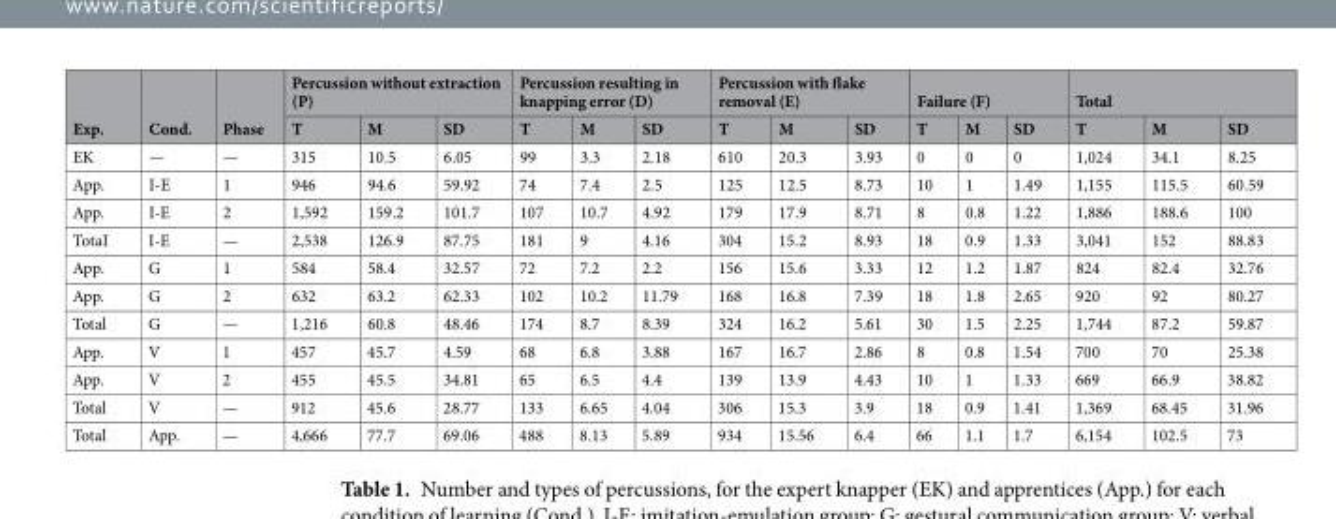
<table><thead><tr><td rowspan="2">Exp.</td><td rowspan="2">Cond.</td><td rowspan="2">Phase</td><td colspan="3">Percussion without extraction (P)</td><td colspan="3">Percussion resulting in knapping error (D)</td><td colspan="3">Percussion with flake removal (E)</td><td colspan="3">Failure (F)</td><td colspan="3">Total</td></tr><tr><td>T</td><td>M</td><td>SD</td><td>T</td><td>M</td><td>SD</td><td>T</td><td>M</td><td>SD</td><td>T</td><td>M</td><td>SD</td><td>T</td><td>M</td><td>SD</td></tr></thead><tbody><tr><td>EK</td><td>—</td><td>—</td><td>315</td><td>10.5</td><td>6.05</td><td>99</td><td>3.3</td><td>2.18</td><td>610</td><td>20.3</td><td>3.93</td><td>0</td><td>0</td><td>0</td><td>1,024</td><td>34.1</td><td>8.25</td></tr><tr><td>App.</td><td>I-E</td><td>1</td><td>946</td><td>94.6</td><td>59.92</td><td>74</td><td>7.4</td><td>2.5</td><td>125</td><td>12.5</td><td>8.73</td><td>10</td><td>1</td><td>1.49</td><td>1,155</td><td>115.5</td><td>60.59</td></tr><tr><td>App.</td><td>I-E</td><td>2</td><td>1,592</td><td>159.2</td><td>101.7</td><td>107</td><td>10.7</td><td>4.92</td><td>179</td><td>17.9</td><td>8.71</td><td>8</td><td>0.8</td><td>1.22</td><td>1,886</td><td>188.6</td><td>100</td></tr><tr><td>TotaI</td><td>I-E</td><td>—</td><td>2,538</td><td>126.9</td><td>87.75</td><td>181</td><td>9</td><td>4.16</td><td>304</td><td>15.2</td><td>8.93</td><td>18</td><td>0.9</td><td>1.33</td><td>3,041</td><td>152</td><td>88.83</td></tr><tr><td>App.</td><td>G</td><td>1</td><td>584</td><td>58.4</td><td>32.57</td><td>72</td><td>7.2</td><td>2.2</td><td>156</td><td>15.6</td><td>3.33</td><td>12</td><td>1.2</td><td>1.87</td><td>824</td><td>82.4</td><td>32.76</td></tr><tr><td>App.</td><td>G</td><td>2</td><td>632</td><td>63.2</td><td>62.33</td><td>102</td><td>10.2</td><td>11.79</td><td>168</td><td>16.8</td><td>7.39</td><td>18</td><td>1.8</td><td>2.65</td><td>920</td><td>92</td><td>80.27</td></tr><tr><td>Total</td><td>G</td><td>—</td><td>1,216</td><td>60.8</td><td>48.46</td><td>174</td><td>8.7</td><td>8.39</td><td>324</td><td>16.2</td><td>5.61</td><td>30</td><td>1.5</td><td>2.25</td><td>1,744</td><td>87.2</td><td>59.87</td></tr><tr><td>App.</td><td>V</td><td>1</td><td>457</td><td>45.7</td><td>4.59</td><td>68</td><td>6.8</td><td>3.88</td><td>167</td><td>16.7</td><td>2.86</td><td>8</td><td>0.8</td><td>1.54</td><td>700</td><td>70</td><td>25.38</td></tr><tr><td>App.</td><td>V</td><td>2</td><td>455</td><td>45.5</td><td>34.81</td><td>65</td><td>6.5</td><td>4.4</td><td>139</td><td>13.9</td><td>4.43</td><td>10</td><td>1</td><td>1.33</td><td>669</td><td>66.9</td><td>38.82</td></tr><tr><td>Total</td><td>V</td><td>—</td><td>912</td><td>45.6</td><td>28.77</td><td>133</td><td>6.65</td><td>4.04</td><td>306</td><td>15.3</td><td>3.9</td><td>18</td><td>0.9</td><td>1.41</td><td>1,369</td><td>68.45</td><td>31.96</td></tr><tr><td>Total</td><td>App.</td><td>—</td><td>4,666</td><td>77.7</td><td>69.06</td><td>488</td><td>8.13</td><td>5.89</td><td>934</td><td>15.56</td><td>6.4</td><td>66</td><td>1.1</td><td>1.7</td><td>6,154</td><td>102.5</td><td>73</td></tr></tbody></table>